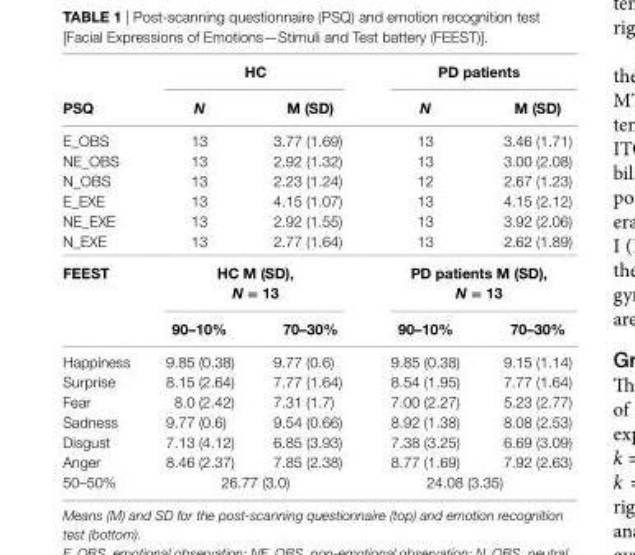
<table><thead><tr><td rowspan="2">PsQ</td><td colspan="2">hc</td><td colspan="2">PD patients</td></tr><tr><td>N</td><td>M (sD)</td><td>N</td><td>M (sD)</td></tr></thead><tbody><tr><td>E_OBS</td><td>13</td><td>3.77 (1.69)</td><td>13</td><td>3.46 (1.71)</td></tr><tr><td>NE_OBS</td><td>13</td><td>2.92 (1.32)</td><td>13</td><td>3.00 (2.08)</td></tr><tr><td>N_OBS</td><td>13</td><td>2.23 (1.24)</td><td>12</td><td>2.67 (1.23)</td></tr><tr><td>E_EXE</td><td>13</td><td>4.15 (1.07)</td><td>13</td><td>4.15 (2.12)</td></tr><tr><td>NE_EXE</td><td>13</td><td>2.92 (1.55)</td><td>13</td><td>3.92 (2.06)</td></tr><tr><td>N_EXE</td><td>13</td><td>2.77 (1.64)</td><td>13</td><td>2.62 (1.89)</td></tr><tr><td rowspan="2">FeesT</td><td colspan="2">hc M (sD), N = 13</td><td colspan="2">PD patients M (sD), N = 13</td></tr><tr><td>90–10%</td><td>70–30%</td><td>90–10%</td><td>70–30%</td></tr><tr><td>Happiness</td><td>9.85 (0.38)</td><td>9.77 (0.6)</td><td>9.85 (0.38)</td><td>9.15 (1.14)</td></tr><tr><td>Surprise</td><td>8.15 (2.64)</td><td>7.77 (1.64)</td><td>8.54 (1.95)</td><td>7.77 (1.64)</td></tr><tr><td>Fear</td><td>8.0 (2.42)</td><td>7.31 (1.7)</td><td>7.00 (2.27)</td><td>5.23 (2.77)</td></tr><tr><td>Sadness</td><td>9.77 (0.6)</td><td>9.54 (0.66)</td><td>8.92 (1.38)</td><td>8.08 (2.53)</td></tr><tr><td>Disgust</td><td>7.13 (4.12)</td><td>6.85 (3.93)</td><td>7.38 (3.25)</td><td>6.69 (3.09)</td></tr><tr><td>Anger</td><td>8.46 (2.37)</td><td>7.85 (2.38)</td><td>8.77 (1.69)</td><td>7.92 (2.63)</td></tr><tr><td>50–50%</td><td colspan="2">26.77 (3.0)</td><td colspan="2">24.08 (3.35)</td></tr></tbody></table>